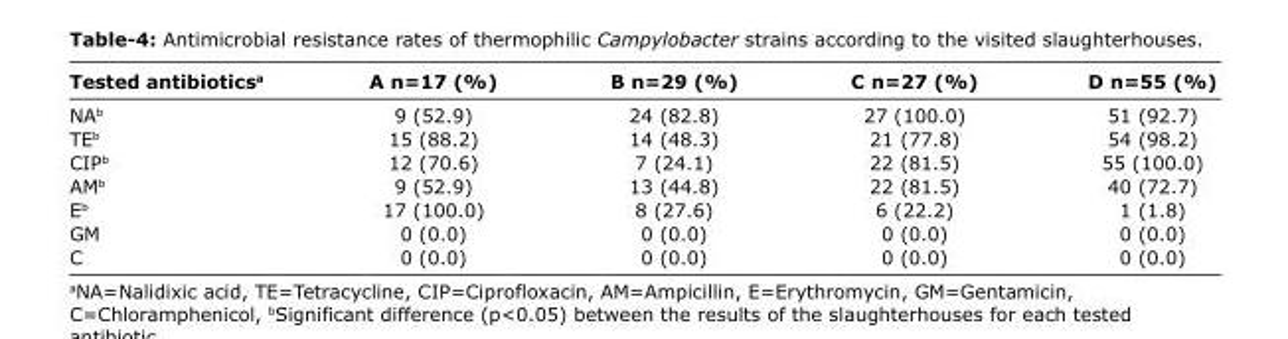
<table><thead><tr><td>Tested antibiotics<sup>a</sup></td><td>A n=17 (%)</td><td>B n=29 (%)</td><td>C n=27 (%)</td><td>D n=55 (%)</td></tr></thead><tbody><tr><td>NA<sup>b</sup></td><td>9 (52.9)</td><td>24 (82.8)</td><td>27 (100.0)</td><td>51 (92.7)</td></tr><tr><td>TE<sup>b</sup></td><td>15 (88.2)</td><td>14 (48.3)</td><td>21 (77.8)</td><td>54 (98.2)</td></tr><tr><td>CIP<sup>b</sup></td><td>12 (70.6)</td><td>7 (24.1)</td><td>22 (81.5)</td><td>55 (100.0)</td></tr><tr><td>AM<sup>b</sup></td><td>9 (52.9)</td><td>13 (44.8)</td><td>22 (81.5)</td><td>40 (72.7)</td></tr><tr><td>E<sup>b</sup></td><td>17 (100.0)</td><td>8 (27.6)</td><td>6 (22.2)</td><td>1 (1.8)</td></tr><tr><td>GM</td><td>0 (0.0)</td><td>0 (0.0)</td><td>0 (0.0)</td><td>0 (0.0)</td></tr><tr><td>C</td><td>0 (0.0)</td><td>0 (0.0)</td><td>0 (0.0)</td><td>0 (0.0)</td></tr></tbody></table>